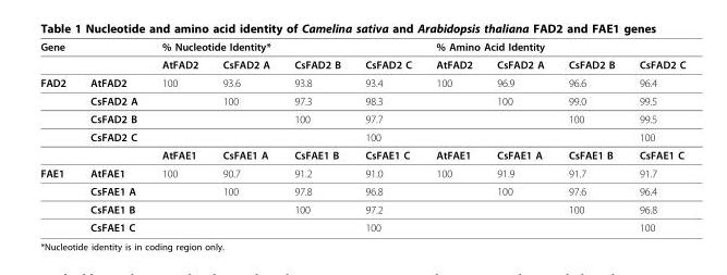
<table><thead><tr><td rowspan="2">Gene</td><td rowspan="2"></td><td colspan="4">% Nucleotide Identity*</td><td colspan="4">% Amino Acid Identity</td></tr><tr><td>AtFAD2</td><td>CsFAD2 A</td><td>CsFAD2 B</td><td>CsFAD2 C</td><td>AtFAD2</td><td>CsFAD2 A</td><td>CsFAD2 B</td><td>CsFAD2 C</td></tr></thead><tbody><tr><td rowspan="5">FAD2</td><td>AtFAD2</td><td>100</td><td>93.6</td><td>93.8</td><td>93.4</td><td>100</td><td>96.9</td><td>96.6</td><td>96.4</td></tr><tr><td>CsFAD2 A</td><td></td><td>100</td><td>97.3</td><td>98.3</td><td></td><td>100</td><td>99.0</td><td>99.5</td></tr><tr><td>CsFAD2 B</td><td></td><td></td><td>100</td><td>97.7</td><td></td><td></td><td>100</td><td>99.5</td></tr><tr><td>CsFAD2 C</td><td></td><td></td><td></td><td>100</td><td></td><td></td><td></td><td>100</td></tr><tr><td></td><td>AtFAE1</td><td>CsFAE1 A</td><td>CsFAE1 B</td><td>CsFAE1 C</td><td>AtFAE1</td><td>CsFAE1 A</td><td>CsFAE1 B</td><td>CsFAE1 C</td></tr><tr><td rowspan="4">FAE1</td><td>AtFAE1</td><td>100</td><td>90.7</td><td>91.2</td><td>91.0</td><td>100</td><td>91.9</td><td>91.7</td><td>91.7</td></tr><tr><td>CsFAE1 A</td><td></td><td>100</td><td>97.8</td><td>96.8</td><td></td><td>100</td><td>97.6</td><td>96.4</td></tr><tr><td>CsFAE1 B</td><td></td><td></td><td>100</td><td>97.2</td><td></td><td></td><td>100</td><td>96.8</td></tr><tr><td>CsFAE1 C</td><td></td><td></td><td></td><td>100</td><td></td><td></td><td></td><td>100</td></tr></tbody></table>